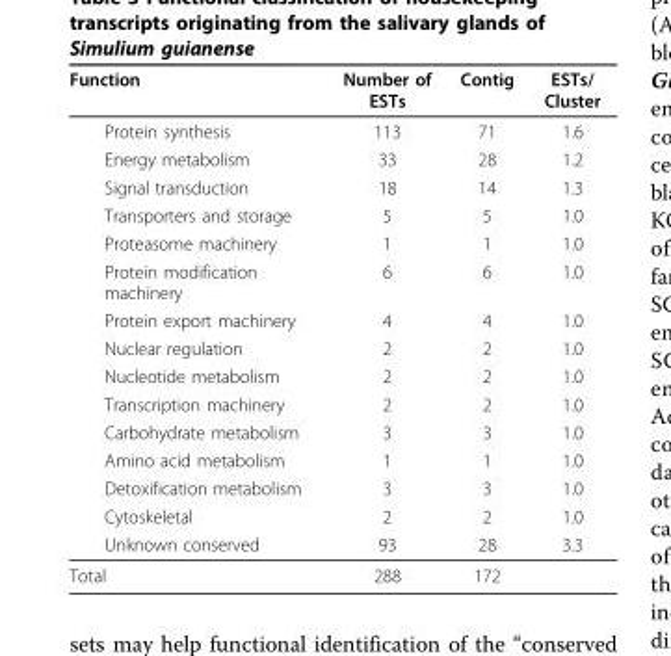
<table><thead><tr><td>Function</td><td>Number of ESTs</td><td>Contig</td><td>ESTs/ Cluster</td></tr></thead><tbody><tr><td>Protein synthesis</td><td>113</td><td>71</td><td>1.6</td></tr><tr><td>Energy metabolism</td><td>33</td><td>28</td><td>1.2</td></tr><tr><td>Signal transduction</td><td>18</td><td>14</td><td>1.3</td></tr><tr><td>Transporters and storage</td><td>5</td><td>5</td><td>1.0</td></tr><tr><td>Proteasome machinery</td><td>1</td><td>1</td><td>1.0</td></tr><tr><td>Protein modification machinery</td><td>6</td><td>6</td><td>1.0</td></tr><tr><td>Protein export machinery</td><td>4</td><td>4</td><td>1.0</td></tr><tr><td>Nuclear regulation</td><td>2</td><td>2</td><td>1.0</td></tr><tr><td>Nucleotide metabolism</td><td>2</td><td>2</td><td>1.0</td></tr><tr><td>Transcription machinery</td><td>2</td><td>2</td><td>1.0</td></tr><tr><td>Carbohydrate metabolism</td><td>3</td><td>3</td><td>1.0</td></tr><tr><td>Amino acid metabolism</td><td>1</td><td>1</td><td>1.0</td></tr><tr><td>Detoxification metabolism</td><td>3</td><td>3</td><td>1.0</td></tr><tr><td>Cytoskeletal</td><td>2</td><td>2</td><td>1.0</td></tr><tr><td>Unknown conserved</td><td>93</td><td>28</td><td>3.3</td></tr><tr><td>Total</td><td>288</td><td>172</td><td></td></tr></tbody></table>